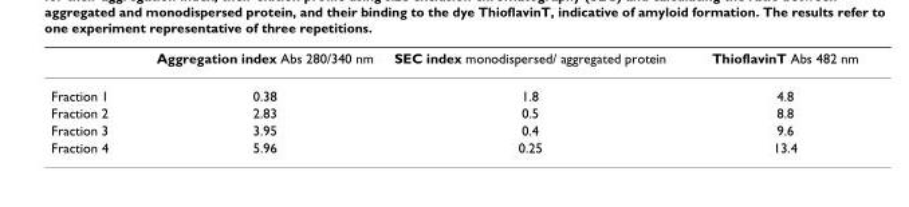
<table><thead><tr><td></td><td>Aggregation index Abs 280/340 nm</td><td>SEC index monodispersed/ aggregated protein</td><td>ThioflavinT Abs 482 nm</td></tr></thead><tbody><tr><td>Fraction 1</td><td>0.38</td><td>1.8</td><td>4.8</td></tr><tr><td>Fraction 2</td><td>2.83</td><td>0.5</td><td>8.8</td></tr><tr><td>Fraction 3</td><td>3.95</td><td>0.4</td><td>9.6</td></tr><tr><td>Fraction 4</td><td>5.96</td><td>0.25</td><td>13.4</td></tr></tbody></table>